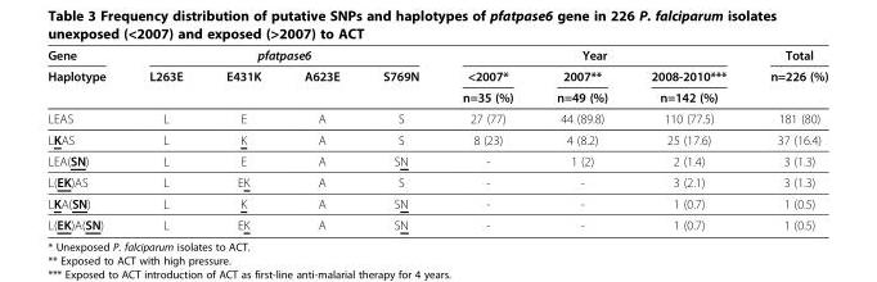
<table><thead><tr><td rowspan="3">Gene Haplotype</td><td colspan="4">pfatpase6</td><td colspan="3">Year</td><td rowspan="3">Total n=226 (%)</td></tr><tr><td rowspan="2">L263E</td><td rowspan="2">E431K</td><td rowspan="2">A623E</td><td rowspan="2">S769N</td><td rowspan="2">&lt;2007* n=35 (%)</td><td rowspan="2">2007** n=49 (%)</td><td rowspan="2">2008-2010*** n=142 (%)</td></tr><tr></tr></thead><tbody><tr><td>LEAS</td><td>L</td><td>E</td><td>A</td><td>S</td><td>27 (77)</td><td>44 (89.8)</td><td>110 (77.5)</td><td>181 (80)</td></tr><tr><td>LKAS</td><td>L</td><td>K</td><td>A</td><td>S</td><td>8 (23)</td><td>4 (8.2)</td><td>25 (17.6)</td><td>37 (16.4)</td></tr><tr><td>LEA(SN)</td><td>L</td><td>E</td><td>A</td><td>SN</td><td>-</td><td>1 (2)</td><td>2 (1.4)</td><td>3 (1.3)</td></tr><tr><td>L(EK)AS</td><td>L</td><td>EK</td><td>A</td><td>S</td><td>-</td><td>-</td><td>3 (2.1)</td><td>3 (1.3)</td></tr><tr><td>LKA(SN)</td><td>L</td><td>K</td><td>A</td><td>SN</td><td>-</td><td>-</td><td>1 (0.7)</td><td>1 (0.5)</td></tr><tr><td>L(EK)A(SN)</td><td>L</td><td>EK</td><td>A</td><td>SN</td><td>-</td><td>-</td><td>1 (0.7)</td><td>1 (0.5)</td></tr></tbody></table>